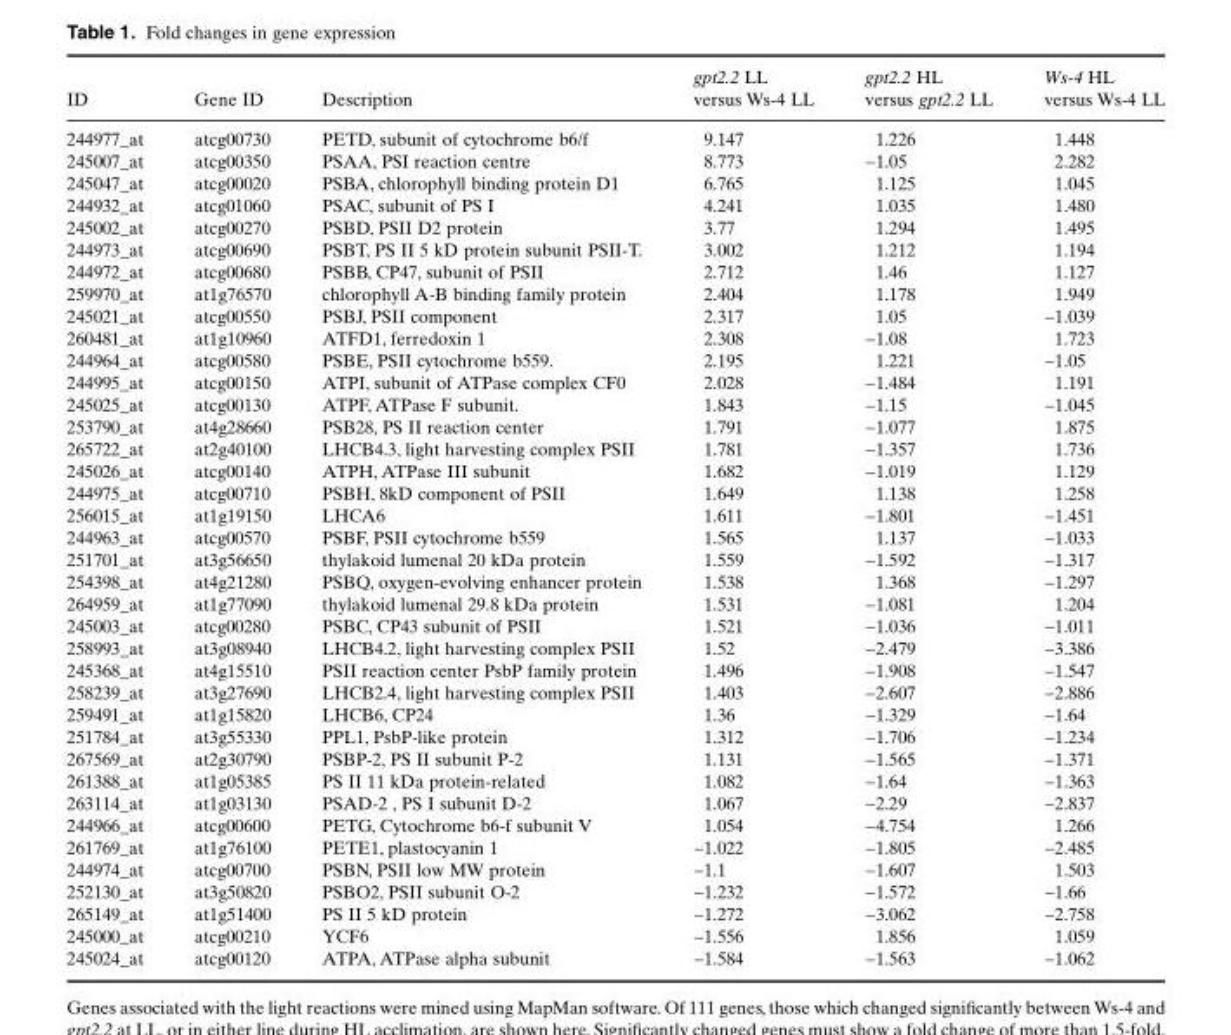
<table><thead><tr><td>ID</td><td>Gene ID</td><td>Description</td><td>gpt2.2 LL versus Ws-4 LL</td><td>gpt2.2 HL versus gpt2.2 LL</td><td>Ws-4 HL versus Ws-4 LL</td></tr></thead><tbody><tr><td>244977_at</td><td>atcg00730</td><td>PETD, subunit of cytochrome b6/f</td><td>9.147</td><td>1.226</td><td>1.448</td></tr><tr><td>245007_at</td><td>atcg00350</td><td>PSAA, PSI reaction centre</td><td>8.773</td><td>−1.05</td><td>2.282</td></tr><tr><td>245047_at</td><td>atcg00020</td><td>PSBA, chlorophyll binding protein D1</td><td>6.765</td><td>1.125</td><td>1.045</td></tr><tr><td>244932_at</td><td>atcg01060</td><td>PSAC, subunit of PS I</td><td>4.241</td><td>1.035</td><td>1.480</td></tr><tr><td>245002_at</td><td>atcg00270</td><td>PSBD, PSII D2 protein</td><td>3.77</td><td>1.294</td><td>1.495</td></tr><tr><td>244973_at</td><td>atcg00690</td><td>PSBT, PS II 5 kD protein subunit PSII-T.</td><td>3.002</td><td>1.212</td><td>1.194</td></tr><tr><td>244972_at</td><td>atcg00680</td><td>PSBB, CP47, subunit of PSII</td><td>2.712</td><td>1.46</td><td>1.127</td></tr><tr><td>259970_at</td><td>at1g76570</td><td>chlorophyll A-B binding family protein</td><td>2.404</td><td>1.178</td><td>1.949</td></tr><tr><td>245021_at</td><td>atcg00550</td><td>PSBJ, PSII component</td><td>2.317</td><td>1.05</td><td>−1.039</td></tr><tr><td>260481_at</td><td>at1g10960</td><td>ATFD1, ferredoxin 1</td><td>2.308</td><td>−1.08</td><td>1.723</td></tr><tr><td>244964_at</td><td>atcg00580</td><td>PSBE, PSII cytochrome b559.</td><td>2.195</td><td>1.221</td><td>−1.05</td></tr><tr><td>244995_at</td><td>atcg00150</td><td>ATPI, subunit of ATPase complex CF0</td><td>2.028</td><td>−1.484</td><td>1.191</td></tr><tr><td>245025_at</td><td>atcg00130</td><td>ATPF, ATPase F subunit.</td><td>1.843</td><td>−1.15</td><td>−1.045</td></tr><tr><td>253790_at</td><td>at4g28660</td><td>PSB28, PS II reaction center</td><td>1.791</td><td>−1.077</td><td>1.875</td></tr><tr><td>265722_at</td><td>at2g40100</td><td>LHCB4.3, light harvesting complex PSII</td><td>1.781</td><td>−1.357</td><td>1.736</td></tr><tr><td>245026_at</td><td>atcg00140</td><td>ATPH, ATPase III subunit</td><td>1.682</td><td>−1.019</td><td>1.129</td></tr><tr><td>244975_at</td><td>atcg00710</td><td>PSBH, 8kD component of PSII</td><td>1.649</td><td>1.138</td><td>1.258</td></tr><tr><td>256015_at</td><td>at1g19150</td><td>LHCA6</td><td>1.611</td><td>−1.801</td><td>−1.451</td></tr><tr><td>244963_at</td><td>atcg00570</td><td>PSBF, PSII cytochrome b559</td><td>1.565</td><td>1.137</td><td>−1.033</td></tr><tr><td>251701_at</td><td>at3g56650</td><td>thylakoid lumenal 20 kDa protein</td><td>1.559</td><td>−1.592</td><td>−1.317</td></tr><tr><td>254398_at</td><td>at4g21280</td><td>PSBQ, oxygen-evolving enhancer protein</td><td>1.538</td><td>1.368</td><td>−1.297</td></tr><tr><td>264959_at</td><td>at1g77090</td><td>thylakoid lumenal 29.8 kDa protein</td><td>1.531</td><td>−1.081</td><td>1.204</td></tr><tr><td>245003_at</td><td>atcg00280</td><td>PSBC, CP43 subunit of PSII</td><td>1.521</td><td>−1.036</td><td>−1.011</td></tr><tr><td>258993_at</td><td>at3g08940</td><td>LHCB4.2, light harvesting complex PSII</td><td>1.52</td><td>−2.479</td><td>−3.386</td></tr><tr><td>245368_at</td><td>at4g15510</td><td>PSII reaction center PsbP family protein</td><td>1.496</td><td>−1.908</td><td>−1.547</td></tr><tr><td>258239_at</td><td>at3g27690</td><td>LHCB2.4, light harvesting complex PSII</td><td>1.403</td><td>−2.607</td><td>−2.886</td></tr><tr><td>259491_at</td><td>at1g15820</td><td>LHCB6, CP24</td><td>1.36</td><td>−1.329</td><td>−1.64</td></tr><tr><td>251784_at</td><td>at3g55330</td><td>PPL1, PsbP-like protein</td><td>1.312</td><td>−1.706</td><td>−1.234</td></tr><tr><td>267569_at</td><td>at2g30790</td><td>PSBP-2, PS II subunit P-2</td><td>1.131</td><td>−1.565</td><td>−1.371</td></tr><tr><td>261388_at</td><td>at1g05385</td><td>PS II 11 kDa protein-related</td><td>1.082</td><td>−1.64</td><td>−1.363</td></tr><tr><td>263114_at</td><td>at1g03130</td><td>PSAD-2 , PS I subunit D-2</td><td>1.067</td><td>−2.29</td><td>−2.837</td></tr><tr><td>244966_at</td><td>atcg00600</td><td>PETG, Cytochrome b6-f subunit V</td><td>1.054</td><td>−4.754</td><td>1.266</td></tr><tr><td>261769_at</td><td>at1g76100</td><td>PETE1, plastocyanin 1</td><td>−1.022</td><td>−1.805</td><td>−2.485</td></tr><tr><td>244974_at</td><td>atcg00700</td><td>PSBN, PSII low MW protein</td><td>−1.1</td><td>−1.607</td><td>1.503</td></tr><tr><td>252130_at</td><td>at3g50820</td><td>PSBO2, PSII subunit O-2</td><td>−1.232</td><td>−1.572</td><td>−1.66</td></tr><tr><td>265149_at</td><td>at1g51400</td><td>PS II 5 kD protein</td><td>−1.272</td><td>−3.062</td><td>−2.758</td></tr><tr><td>245000_at</td><td>atcg00210</td><td>YCF6</td><td>−1.556</td><td>1.856</td><td>1.059</td></tr><tr><td>245024_at</td><td>atcg00120</td><td>ATPA, ATPase alpha subunit</td><td>−1.584</td><td>−1.563</td><td>−1.062</td></tr></tbody></table>